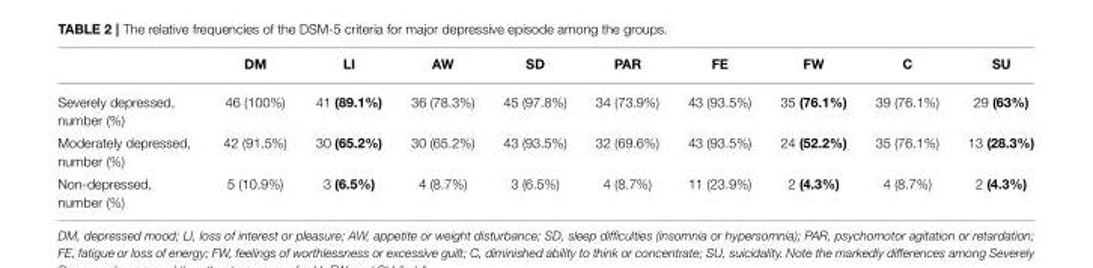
<table><thead><tr><td></td><td>DM</td><td>LI</td><td>AW</td><td>SD</td><td>PAR</td><td>FE</td><td>FW</td><td>C</td><td>SU</td></tr></thead><tbody><tr><td>Severely depressed, number (%)</td><td>46 (100%)</td><td>41 (89.1%)</td><td>36 (78.3%)</td><td>45 (97.8%)</td><td>34 (73.9%)</td><td>43 (93.5%)</td><td>35 (76.1%)</td><td>39 (76.1%)</td><td>29 (63%)</td></tr><tr><td>Moderately depressed, number (%)</td><td>42 (91.5%)</td><td>30 (65.2%)</td><td>30 (65.2%)</td><td>43 (93.5%)</td><td>32 (69.6%)</td><td>43 (93.5%)</td><td>24 (52.2%)</td><td>35 (76.1%)</td><td>13 (28.3%)</td></tr><tr><td>Non-depressed, number (%)</td><td>5 (10.9%)</td><td>3 (6.5%)</td><td>4 (8.7%)</td><td>3 (6.5%)</td><td>4 (8.7%)</td><td>11 (23.9%)</td><td>2 (4.3%)</td><td>4 (8.7%)</td><td>2 (4.3%)</td></tr></tbody></table>